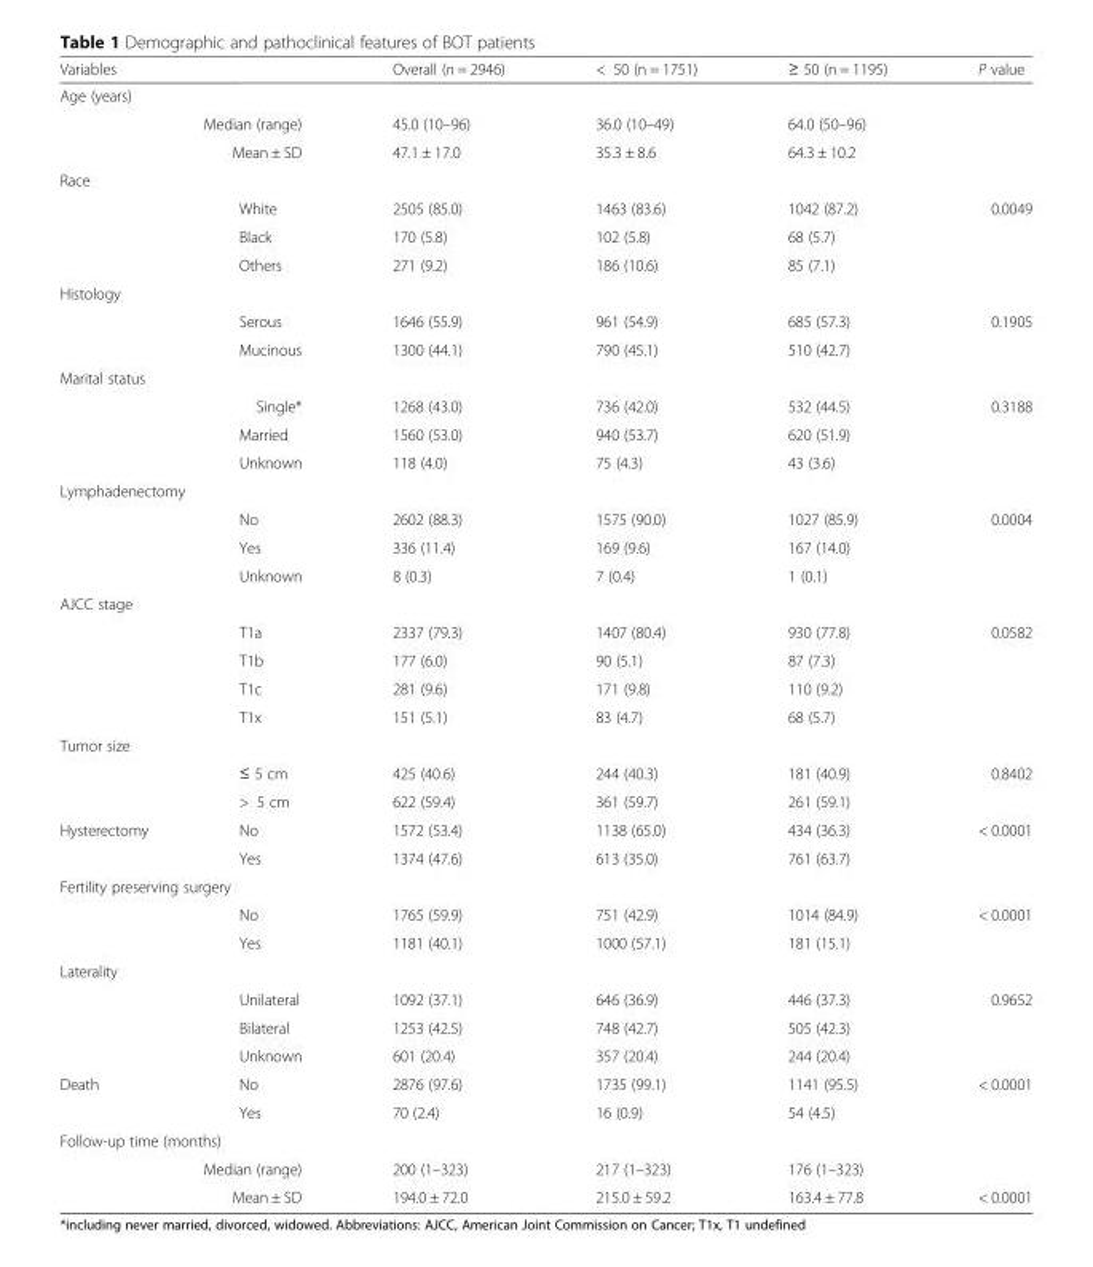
<table><thead><tr><td>Variables</td><td></td><td>Overall (n = 2946)</td><td>&lt; 50 (n = 1751)</td><td>≥ 50 (n = 1195)</td><td>P value</td></tr></thead><tbody><tr><td colspan="6">Age (years)</td></tr><tr><td colspan="2">Median (range)</td><td>45.0 (10–96)</td><td>36.0 (10–49)</td><td>64.0 (50–96)</td><td></td></tr><tr><td colspan="2">Mean ± SD</td><td>47.1 ± 17.0</td><td>35.3 ± 8.6</td><td>64.3 ± 10.2</td><td></td></tr><tr><td colspan="6">Race</td></tr><tr><td></td><td>White</td><td>2505 (85.0)</td><td>1463 (83.6)</td><td>1042 (87.2)</td><td>0.0049</td></tr><tr><td></td><td>Black</td><td>170 (5.8)</td><td>102 (5.8)</td><td>68 (5.7)</td><td></td></tr><tr><td></td><td>Others</td><td>271 (9.2)</td><td>186 (10.6)</td><td>85 (7.1)</td><td></td></tr><tr><td colspan="6">Histology</td></tr><tr><td></td><td>Serous</td><td>1646 (55.9)</td><td>961 (54.9)</td><td>685 (57.3)</td><td>0.1905</td></tr><tr><td></td><td>Mucinous</td><td>1300 (44.1)</td><td>790 (45.1)</td><td>510 (42.7)</td><td></td></tr><tr><td colspan="6">Marital status</td></tr><tr><td colspan="2">Single*</td><td>1268 (43.0)</td><td>736 (42.0)</td><td>532 (44.5)</td><td>0.3188</td></tr><tr><td></td><td>Married</td><td>1560 (53.0)</td><td>940 (53.7)</td><td>620 (51.9)</td><td></td></tr><tr><td></td><td>Unknown</td><td>118 (4.0)</td><td>75 (4.3)</td><td>43 (3.6)</td><td></td></tr><tr><td colspan="6">Lymphadenectomy</td></tr><tr><td></td><td>No</td><td>2602 (88.3)</td><td>1575 (90.0)</td><td>1027 (85.9)</td><td>0.0004</td></tr><tr><td></td><td>Yes</td><td>336 (11.4)</td><td>169 (9.6)</td><td>167 (14.0)</td><td></td></tr><tr><td></td><td>Unknown</td><td>8 (0.3)</td><td>7 (0.4)</td><td>1 (0.1)</td><td></td></tr><tr><td colspan="6">AJCC stage</td></tr><tr><td></td><td>T1a</td><td>2337 (79.3)</td><td>1407 (80.4)</td><td>930 (77.8)</td><td>0.0582</td></tr><tr><td></td><td>T1b</td><td>177 (6.0)</td><td>90 (5.1)</td><td>87 (7.3)</td><td></td></tr><tr><td></td><td>T1c</td><td>281 (9.6)</td><td>171 (9.8)</td><td>110 (9.2)</td><td></td></tr><tr><td></td><td>T1x</td><td>151 (5.1)</td><td>83 (4.7)</td><td>68 (5.7)</td><td></td></tr><tr><td colspan="6">Tumor size</td></tr><tr><td></td><td>≤ 5 cm</td><td>425 (40.6)</td><td>244 (40.3)</td><td>181 (40.9)</td><td>0.8402</td></tr><tr><td></td><td>&gt; 5 cm</td><td>622 (59.4)</td><td>361 (59.7)</td><td>261 (59.1)</td><td></td></tr><tr><td rowspan="2">Hysterectomy</td><td>No</td><td>1572 (53.4)</td><td>1138 (65.0)</td><td>434 (36.3)</td><td>&lt; 0.0001</td></tr><tr><td>Yes</td><td>1374 (47.6)</td><td>613 (35.0)</td><td>761 (63.7)</td><td></td></tr><tr><td colspan="6">Fertility preserving surgery</td></tr><tr><td></td><td>No</td><td>1765 (59.9)</td><td>751 (42.9)</td><td>1014 (84.9)</td><td>&lt; 0.0001</td></tr><tr><td></td><td>Yes</td><td>1181 (40.1)</td><td>1000 (57.1)</td><td>181 (15.1)</td><td></td></tr><tr><td colspan="6">Laterality</td></tr><tr><td></td><td>Unilateral</td><td>1092 (37.1)</td><td>646 (36.9)</td><td>446 (37.3)</td><td>0.9652</td></tr><tr><td></td><td>Bilateral</td><td>1253 (42.5)</td><td>748 (42.7)</td><td>505 (42.3)</td><td></td></tr><tr><td></td><td>Unknown</td><td>601 (20.4)</td><td>357 (20.4)</td><td>244 (20.4)</td><td></td></tr><tr><td rowspan="2">Death</td><td>No</td><td>2876 (97.6)</td><td>1735 (99.1)</td><td>1141 (95.5)</td><td>&lt; 0.0001</td></tr><tr><td>Yes</td><td>70 (2.4)</td><td>16 (0.9)</td><td>54 (4.5)</td><td></td></tr><tr><td colspan="6">Follow-up time (months)</td></tr><tr><td colspan="2">Median (range)</td><td>200 (1–323)</td><td>217 (1–323)</td><td>176 (1–323)</td><td></td></tr><tr><td colspan="2">Mean ± SD</td><td>194.0 ± 72.0</td><td>215.0 ± 59.2</td><td>163.4 ± 77.8</td><td>&lt; 0.0001</td></tr></tbody></table>